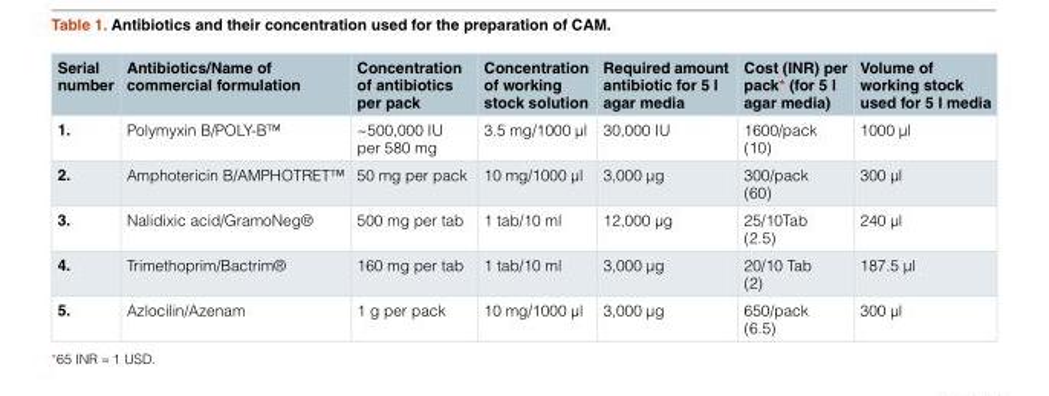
<table><thead><tr><td>Serial number</td><td>Antibiotics/Name of commercial formulation</td><td>Concentration of antibiotics per pack</td><td>Concentration of working stock solution</td><td>Required amount antibiotic for 5 l agar media</td><td>Cost (INR) per pack* (for 5 l agar media)</td><td>Volume of working stock used for 5 l media</td></tr></thead><tbody><tr><td>1.</td><td>Polymyxin B/POLY-B™</td><td>~500,000 IU per 580 mg</td><td>3.5 mg/1000 µl</td><td>30,000 IU</td><td>1600/pack (10)</td><td>1000 µl</td></tr><tr><td>2.</td><td>Amphotericin B/AMPHOTRET™</td><td>50 mg per pack</td><td>10 mg/1000 µl</td><td>3,000 µg</td><td>300/pack (60)</td><td>300 µl</td></tr><tr><td>3.</td><td>Nalidixic acid/GramoNeg®</td><td>500 mg per tab</td><td>1 tab/10 ml</td><td>12,000 µg</td><td>25/10Tab (2.5)</td><td>240 µl</td></tr><tr><td>4.</td><td>Trimethoprim/Bactrim®</td><td>160 mg per tab</td><td>1 tab/10 ml</td><td>3,000 µg</td><td>20/10 Tab (2)</td><td>187.5 µl</td></tr><tr><td>5.</td><td>Azlocilin/Azenam</td><td>1 g per pack</td><td>10 mg/1000 µl</td><td>3,000 µg</td><td>650/pack (6.5)</td><td>300 µl</td></tr></tbody></table>